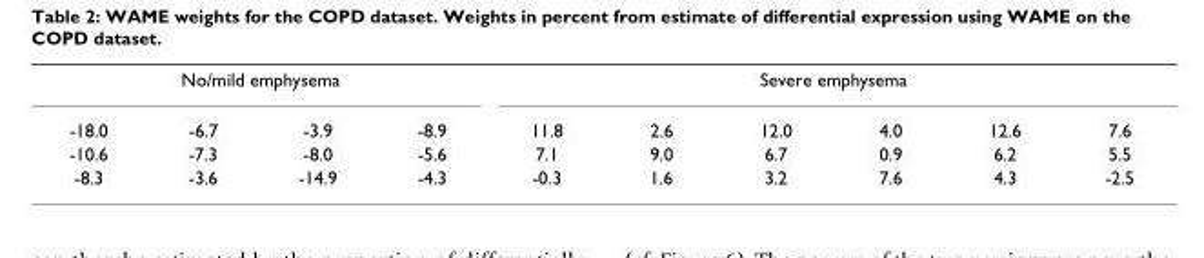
<table><tbody><tr><td colspan="4">No/mild emphysema</td><td colspan="6">Severe emphysema</td></tr><tr><td>-18.0</td><td>-6.7</td><td>-3.9</td><td>-8.9</td><td>11.8</td><td>2.6</td><td>12.0</td><td>4.0</td><td>12.6</td><td>7.6</td></tr><tr><td>-10.6</td><td>-7.3</td><td>-8.0</td><td>-5.6</td><td>7.1</td><td>9.0</td><td>6.7</td><td>0.9</td><td>6.2</td><td>5.5</td></tr><tr><td>-8.3</td><td>-3.6</td><td>-14.9</td><td>-4.3</td><td>-0.3</td><td>1.6</td><td>3.2</td><td>7.6</td><td>4.3</td><td>-2.5</td></tr></tbody></table>